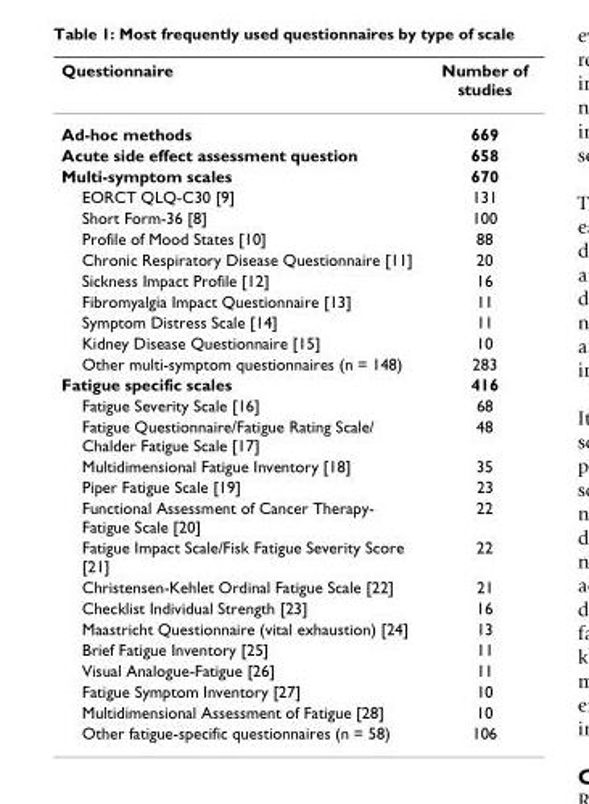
<table><thead><tr><td>Questionnaire</td><td>Number of studies</td></tr></thead><tbody><tr><td>Ad-hoc methods</td><td>669</td></tr><tr><td>Acute side effect assessment question</td><td>658</td></tr><tr><td>Multi-symptom scales</td><td>670</td></tr><tr><td>EORCT QLQ-C30 [9]</td><td>131</td></tr><tr><td>Short Form-36 [8]</td><td>100</td></tr><tr><td>Profile of Mood States [10]</td><td>88</td></tr><tr><td>Chronic Respiratory Disease Questionnaire [11]</td><td>20</td></tr><tr><td>Sickness Impact Profile [12]</td><td>16</td></tr><tr><td>Fibromyalgia Impact Questionnaire [13]</td><td>11</td></tr><tr><td>Symptom Distress Scale [14]</td><td>11</td></tr><tr><td>Kidney Disease Questionnaire [15]</td><td>10</td></tr><tr><td>Other multi-symptom questionnaires (n = 148)</td><td>283</td></tr><tr><td>Fatigue specific scales</td><td>416</td></tr><tr><td>Fatigue Severity Scale [16]</td><td>68</td></tr><tr><td>Fatigue Questionnaire/Fatigue Rating Scale/ Chalder Fatigue Scale [17]</td><td>48</td></tr><tr><td>Multidimensional Fatigue Inventory [18]</td><td>35</td></tr><tr><td>Piper Fatigue Scale [19]</td><td>23</td></tr><tr><td>Functional Assessment of Cancer Therapy- Fatigue Scale [20]</td><td>22</td></tr><tr><td>Fatigue Impact Scale/Fisk Fatigue Severity Score [21]</td><td>22</td></tr><tr><td>Christensen-Kehlet Ordinal Fatigue Scale [22]</td><td>21</td></tr><tr><td>Checklist Individual Strength [23]</td><td>16</td></tr><tr><td>Maastricht Questionnaire (vital exhaustion) [24]</td><td>13</td></tr><tr><td>Brief Fatigue Inventory [25]</td><td>11</td></tr><tr><td>Visual Analogue-Fatigue [26]</td><td>11</td></tr><tr><td>Fatigue Symptom Inventory [27]</td><td>10</td></tr><tr><td>Multidimensional Assessment of Fatigue [28]</td><td>10</td></tr><tr><td>Other fatigue-specific questionnaires (n = 58)</td><td>106</td></tr></tbody></table>